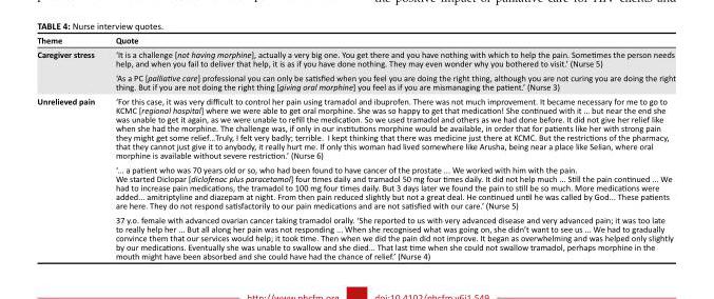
<table><thead><tr><td>Theme</td><td>Quote</td></tr></thead><tbody><tr><td rowspan="2">Caregiver stress</td><td>‘It is a challenge [not having morphine], actually a very big one. You get there and you have nothing with which to help the pain. Sometimes the person needs help, and when you fail to deliver that help, it is as if you have done nothing. They may even wonder why you bothered to visit.’ (Nurse 5)</td></tr><tr><td>‘As a PC [palliative care] professional you can only be satisfied when you feel you are doing the right thing, although you are not curing you are doing the right thing. But if you are not doing the right thing [giving oral morphine] you feel as if you are mismanaging the patient.’ (Nurse 3)</td></tr><tr><td rowspan="3">Unrelieved pain</td><td>‘For this case, it was very difficult to control her pain using tramadol and ibuprofen. There was not much improvement. It became necessary for me to go to KCMC [regional hospital] where we were able to get oral morphine. She was so happy to get that medication! She continued with it … but near the end she was unable to get it again, as we were unable to refill the medication. So we used tramadol and others as we had done before. It did not give her relief like when she had the morphine. The challenge was, if only in our institutions morphine would be available, in order that for patients like her with strong pain they might get some relief…Truly, I felt very badly; terrible. I kept thinking that there was medicine just there at KCMC. But the restrictions of the pharmacy, that they cannot just give it to anybody, it really hurt me. If only this woman had lived somewhere like Arusha, being near a place like Selian, where oral morphine is available without severe restriction.’ (Nurse 6)</td></tr><tr><td>‘... a patient who was 70 years old or so, who had been found to have cancer of the prostate ... We worked with him with the pain. We started Diclopar [diclofenac plus paracetamol] four times daily and tramadol 50 mg four times daily. It did not help much ... Still the pain continued ... We had to increase pain medications, the tramadol to 100 mg four times daily. But 3 days later we found the pain to still be so much. More medications were added... amitriptyline and diazepam at night. From then pain reduced slightly but not a great deal. He continued until he was called by God... These patients are here. They do not respond satisfactorily to our pain medications and are not satisfied with our care.’ (Nurse 5)</td></tr><tr><td>37 y.o. female with advanced ovarian cancer taking tramadol orally. ‘She reported to us with very advanced disease and very advanced pain; it was too late to really help her ... But all along her pain was not responding ... When she recognised what was going on, she didn’t want to see us ... We had to gradually convince them that our services would help; it took time. Then when we did the pain did not improve. It began as overwhelming and was helped only slightly by our medications. Eventually she was unable to swallow and she died... That last time when she could not swallow tramadol, perhaps morphine in the mouth might have been absorbed and she could have had the chance of relief.’ (Nurse 4)</td></tr></tbody></table>